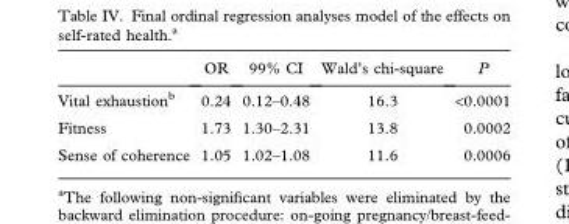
<table><thead><tr><td></td><td>OR</td><td>99% CI</td><td>Wald’s chi-square</td><td>P</td></tr></thead><tbody><tr><td>Vital exhaustion<sup>b</sup></td><td>0.24</td><td>0.12–0.48</td><td>16.3</td><td>&lt;0.0001</td></tr><tr><td>Fitness</td><td>1.73</td><td>1.30–2.31</td><td>13.8</td><td>0.0002</td></tr><tr><td>Sense of coherence</td><td>1.05</td><td>1.02–1.08</td><td>11.6</td><td>0.0006</td></tr></tbody></table>